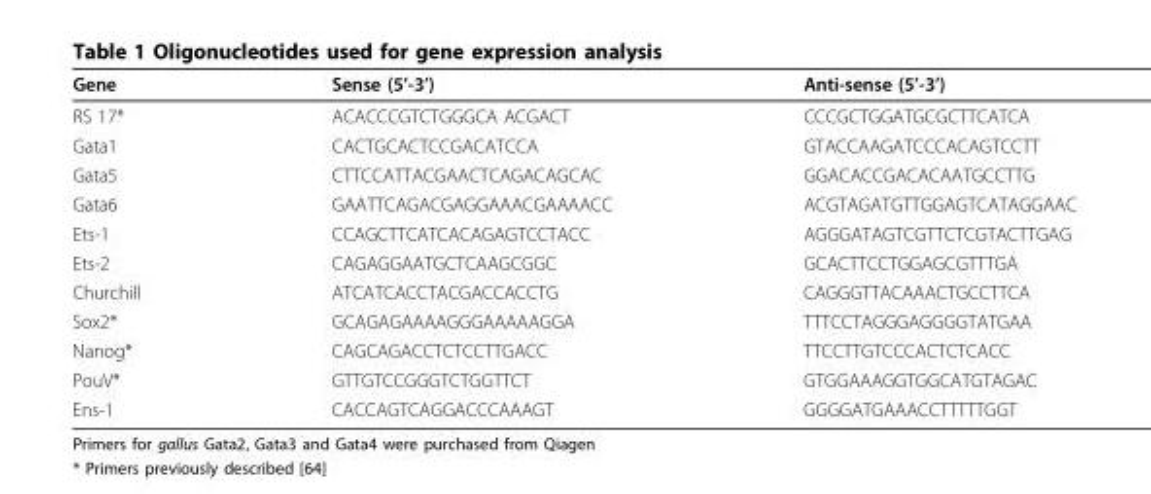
<table><thead><tr><td>Gene</td><td>Sense (5’-3’)</td><td>Anti-sense (5’-3’)</td></tr></thead><tbody><tr><td>RS 17*</td><td>ACACCCGTCTGGGCA ACGACT</td><td>CCCGCTGGATGCGCTTCATCA</td></tr><tr><td>Gata1</td><td>CACTGCACTCCGACATCCA</td><td>GTACCAAGATCCCACAGTCCTT</td></tr><tr><td>Gata5</td><td>CTTCCATTACGAACTCAGACAGCAC</td><td>GGACACCGACACAATGCCTTG</td></tr><tr><td>Gata6</td><td>GAATTCAGACGAGGAAACGAAAACC</td><td>ACGTAGATGTTGGAGTCATAGGAAC</td></tr><tr><td>Ets-1</td><td>CCAGCTTCATCACAGAGTCCTACC</td><td>AGGGATAGTCGTTCTCGTACTTGAG</td></tr><tr><td>Ets-2</td><td>CAGAGGAATGCTCAAGCGGC</td><td>GCACTTCCTGGAGCGTTTGA</td></tr><tr><td>Churchill</td><td>ATCATCACCTACGACCACCTG</td><td>CAGGGTTACAAACTGCCTTCA</td></tr><tr><td>Sox2*</td><td>GCAGAGAAAAGGGAAAAAGGA</td><td>TTTCCTAGGGAGGGGTATGAA</td></tr><tr><td>Nanog*</td><td>CAGCAGACCTCTCCTTGACC</td><td>TTCCTTGTCCCACTCTCACC</td></tr><tr><td>PouV*</td><td>GTTGTCCGGGTCTGGTTCT</td><td>GTGGAAAGGTGGCATGTAGAC</td></tr><tr><td>Ens-1</td><td>CACCAGTCAGGACCCAAAGT</td><td>GGGGATGAAACCTTTTTGGT</td></tr></tbody></table>